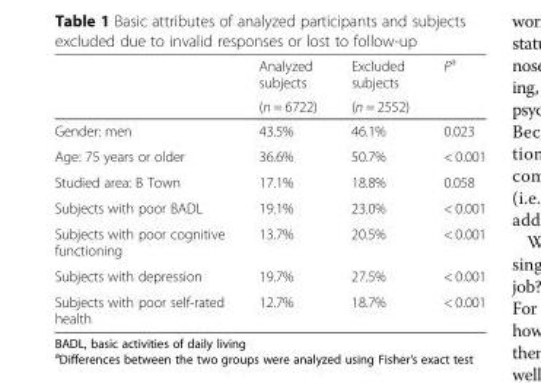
<table><thead><tr><td rowspan="2"></td><td rowspan="2">Analyzed subjects (n = 6722)</td><td rowspan="2">Excluded subjects (n = 2552)</td><td rowspan="2">P<sup>a</sup></td></tr><tr></tr></thead><tbody><tr><td>Gender: men</td><td>43.5%</td><td>46.1%</td><td>0.023</td></tr><tr><td>Age: 75 years or older</td><td>36.6%</td><td>50.7%</td><td>&lt; 0.001</td></tr><tr><td>Studied area: B Town</td><td>17.1%</td><td>18.8%</td><td>0.058</td></tr><tr><td>Subjects with poor BADL</td><td>19.1%</td><td>23.0%</td><td>&lt; 0.001</td></tr><tr><td>Subjects with poor cognitive functioning</td><td>13.7%</td><td>20.5%</td><td>&lt; 0.001</td></tr><tr><td>Subjects with depression</td><td>19.7%</td><td>27.5%</td><td>&lt; 0.001</td></tr><tr><td>Subjects with poor self-rated health</td><td>12.7%</td><td>18.7%</td><td>&lt; 0.001</td></tr></tbody></table>